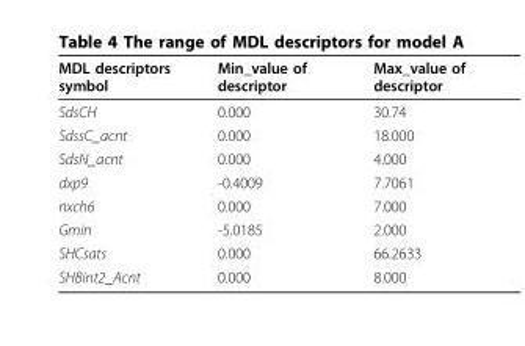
<table><thead><tr><td>MDL descriptors symbol</td><td>Min_value of descriptor</td><td>Max_value of descriptor</td></tr></thead><tbody><tr><td>SdsCH</td><td>0.000</td><td>30.74</td></tr><tr><td>SdssC_acnt</td><td>0.000</td><td>18.000</td></tr><tr><td>SdsN_acnt</td><td>0.000</td><td>4.000</td></tr><tr><td>dxp9</td><td>-0.4009</td><td>7.7061</td></tr><tr><td>nxch6</td><td>0.000</td><td>7.000</td></tr><tr><td>Gmin</td><td>-5.0185</td><td>2.000</td></tr><tr><td>SHCsats</td><td>0.000</td><td>66.2633</td></tr><tr><td>SHBint2_Acnt</td><td>0.000</td><td>8.000</td></tr></tbody></table>